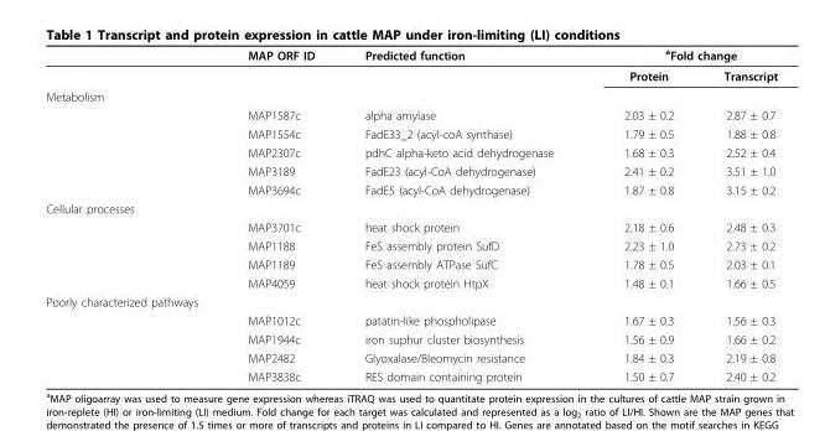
<table><thead><tr><td rowspan="2"></td><td rowspan="2">MAP ORF ID</td><td rowspan="2">Predicted function</td><td colspan="2"><sup>a</sup>Fold change</td></tr><tr><td>Protein</td><td>Transcript</td></tr></thead><tbody><tr><td colspan="5">Metabolism</td></tr><tr><td></td><td>MAP1587c</td><td>alpha amylase</td><td>2.03 ± 0.2</td><td>2.87 ± 0.7</td></tr><tr><td></td><td>MAP1554c</td><td>FadE33_2 (acyl-coA synthase)</td><td>1.79 ± 0.5</td><td>1.88 ± 0.8</td></tr><tr><td></td><td>MAP2307c</td><td>pdhC alpha-keto acid dehydrogenase</td><td>1.68 ± 0.3</td><td>2.52 ± 0.4</td></tr><tr><td></td><td>MAP3189</td><td>FadE23 (acyl-CoA dehydrogenase)</td><td>2.41 ± 0.2</td><td>3.51 ± 1.0</td></tr><tr><td></td><td>MAP3694c</td><td>FadE5 (acyl-CoA dehydrogenase)</td><td>1.87 ± 0.8</td><td>3.15 ± 0.2</td></tr><tr><td colspan="5">Cellular processes</td></tr><tr><td></td><td>MAP3701c</td><td>heat shock protein</td><td>2.18 ± 0.6</td><td>2.48 ± 0.3</td></tr><tr><td></td><td>MAP1188</td><td>FeS assembly protein SufD</td><td>2.23 ± 1.0</td><td>2.73 ± 0.2</td></tr><tr><td></td><td>MAP1189</td><td>FeS assembly ATPase SufC</td><td>1.78 ± 0.5</td><td>2.03 ± 0.1</td></tr><tr><td></td><td>MAP4059</td><td>heat shock protein HtpX</td><td>1.48 ± 0.1</td><td>1.66 ± 0.5</td></tr><tr><td colspan="5">Poorly characterized pathways</td></tr><tr><td></td><td>MAP1012c</td><td>patatin-like phospholipase</td><td>1.67 ± 0.3</td><td>1.56 ± 0.3</td></tr><tr><td></td><td>MAP1944c</td><td>iron suphur cluster biosynthesis</td><td>1.56 ± 0.9</td><td>1.66 ± 0.2</td></tr><tr><td></td><td>MAP2482</td><td>Glyoxalase/Bleomycin resistance</td><td>1.84 ± 0.3</td><td>2.19 ± 0.8</td></tr><tr><td></td><td>MAP3838c</td><td>RES domain containing protein</td><td>1.50 ± 0.7</td><td>2.40 ± 0.2</td></tr></tbody></table>